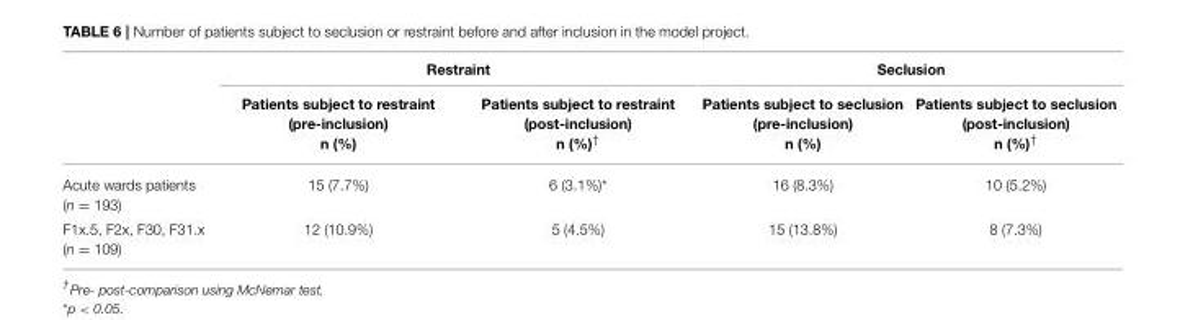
<table><thead><tr><td rowspan="2"></td><td colspan="2">Restraint</td><td colspan="2">Seclusion</td></tr><tr><td>Patients subject to restraint (pre-inclusion) n (%)</td><td>Patients subject to restraint (post-inclusion) n (%)<sup>†</sup></td><td>Patients subject to seclusion (pre-inclusion) n (%)</td><td>Patients subject to seclusion (post-inclusion) n (%)<sup>†</sup></td></tr></thead><tbody><tr><td>Acute wards patients (n = 193)</td><td>15 (7.7%)</td><td>6 (3.1%)*</td><td>16 (8.3%)</td><td>10 (5.2%)</td></tr><tr><td>F1x.5, F2x, F30, F31.x (n = 109)</td><td>12 (10.9%)</td><td>5 (4.5%)</td><td>15 (13.8%)</td><td>8 (7.3%)</td></tr></tbody></table>